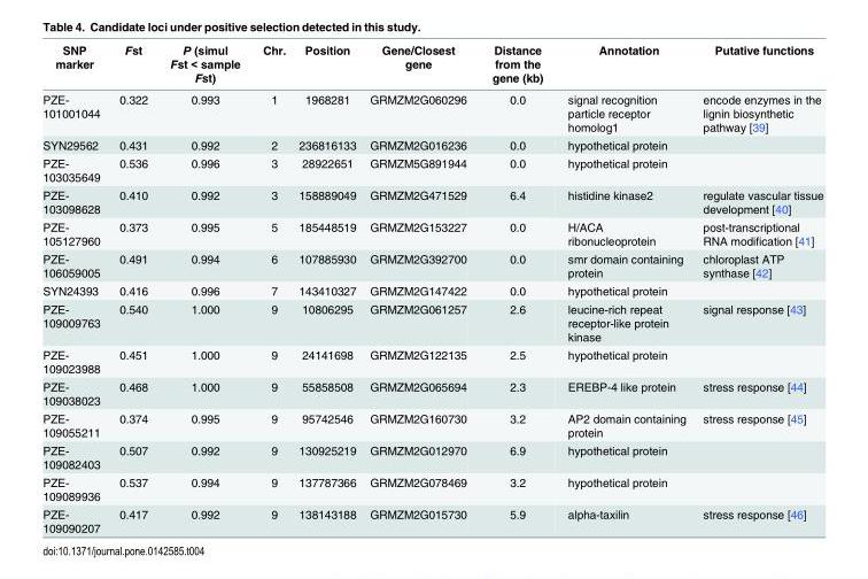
<table><thead><tr><td>SNP marker</td><td>Fst</td><td>P (simul Fst &lt; sample Fst)</td><td>Chr.</td><td>Position</td><td>Gene/Closest gene</td><td>Distance from the gene (kb)</td><td>Annotation</td><td>Putative functions</td></tr></thead><tbody><tr><td>PZE- 101001044</td><td>0.322</td><td>0.993</td><td>1</td><td>1968281</td><td>GRMZM2G060296</td><td>0.0</td><td>signal recognition particle receptor homolog1</td><td>encode enzymes in the lignin biosynthetic pathway [39]</td></tr><tr><td>SYN29562</td><td>0.431</td><td>0.992</td><td>2</td><td>236816133</td><td>GRMZM2G016236</td><td>0.0</td><td>hypothetical protein</td><td></td></tr><tr><td>PZE- 103035649</td><td>0.536</td><td>0.996</td><td>3</td><td>28922651</td><td>GRMZM5G891944</td><td>0.0</td><td>hypothetical protein</td><td></td></tr><tr><td>PZE- 103098628</td><td>0.410</td><td>0.992</td><td>3</td><td>158889049</td><td>GRMZM2G471529</td><td>6.4</td><td>histidine kinase2</td><td>regulate vascular tissue development [40]</td></tr><tr><td>PZE- 105127960</td><td>0.373</td><td>0.995</td><td>5</td><td>185448519</td><td>GRMZM2G153227</td><td>0.0</td><td>H/ACA ribonucleoprotein</td><td>post-transcriptional RNA modification [41]</td></tr><tr><td>PZE- 106059005</td><td>0.491</td><td>0.994</td><td>6</td><td>107885930</td><td>GRMZM2G392700</td><td>0.0</td><td>smr domain containing protein</td><td>chloroplast ATP synthase [42]</td></tr><tr><td>SYN24393</td><td>0.416</td><td>0.996</td><td>7</td><td>143410327</td><td>GRMZM2G147422</td><td>0.0</td><td>hypothetical protein</td><td></td></tr><tr><td>PZE- 109009763</td><td>0.540</td><td>1.000</td><td>9</td><td>10806295</td><td>GRMZM2G061257</td><td>2.6</td><td>leucine-rich repeat receptor-like protein kinase</td><td>signal response [43]</td></tr><tr><td>PZE- 109023988</td><td>0.451</td><td>1.000</td><td>9</td><td>24141698</td><td>GRMZM2G122135</td><td>2.5</td><td>hypothetical protein</td><td></td></tr><tr><td>PZE- 109038023</td><td>0.468</td><td>1.000</td><td>9</td><td>55858508</td><td>GRMZM2G065694</td><td>2.3</td><td>EREBP-4 like protein</td><td>stress response [44]</td></tr><tr><td>PZE- 109055211</td><td>0.374</td><td>0.995</td><td>9</td><td>95742546</td><td>GRMZM2G160730</td><td>3.2</td><td>AP2 domain containing protein</td><td>stress response [45]</td></tr><tr><td>PZE- 109082403</td><td>0.507</td><td>0.992</td><td>9</td><td>130925219</td><td>GRMZM2G012970</td><td>6.9</td><td>hypothetical protein</td><td></td></tr><tr><td>PZE- 109089936</td><td>0.537</td><td>0.994</td><td>9</td><td>137787366</td><td>GRMZM2G078469</td><td>3.2</td><td>hypothetical protein</td><td></td></tr><tr><td>PZE- 109090207</td><td>0.417</td><td>0.992</td><td>9</td><td>138143188</td><td>GRMZM2G015730</td><td>5.9</td><td>alpha-taxilin</td><td>stress response [46]</td></tr></tbody></table>